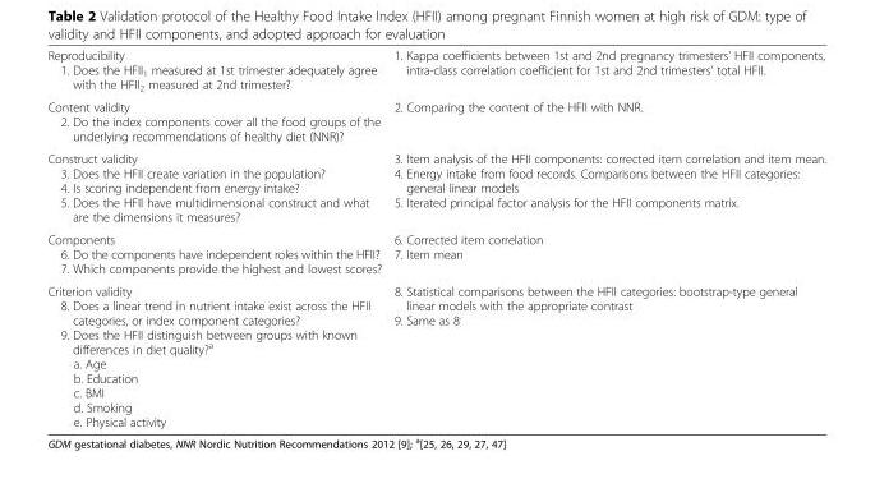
<table><tbody><tr><td>Reproducibility 1. Does the HFII<sub>1</sub> measured at 1st trimester adequately agree with the HFII<sub>2</sub> measured at 2nd trimester?</td><td>1. Kappa coefficients between 1st and 2nd pregnancy trimesters’ HFII components, intra-class correlation coefficient for 1st and 2nd trimesters’ total HFII.</td></tr><tr><td>Content validity 2. Do the index components cover all the food groups of the underlying recommendations of healthy diet (NNR)?</td><td>2. Comparing the content of the HFII with NNR.</td></tr><tr><td>Construct validity 3. Does the HFII create variation in the population? 4. Is scoring independent from energy intake? 5. Does the HFII have multidimensional construct and what are the dimensions it measures?</td><td>3. Item analysis of the HFII components: corrected item correlation and item mean. 4. Energy intake from food records. Comparisons between the HFII categories: general linear models 5. Iterated principal factor analysis for the HFII components matrix.</td></tr><tr><td>Components 6. Do the components have independent roles within the HFII? 7. Which components provide the highest and lowest scores?</td><td>6. Corrected item correlation 7. Item mean</td></tr><tr><td>Criterion validity 8. Does a linear trend in nutrient intake exist across the HFII categories, or index component categories? 9. Does the HFII distinguish between groups with known differences in diet quality?<sup>a</sup> a. Age b. Education c. BMI d. Smoking e. Physical activity</td><td>8. Statistical comparisons between the HFII categories: bootstrap-type general linear models with the appropriate contrast 9. Same as 8<sup>.</sup></td></tr></tbody></table>